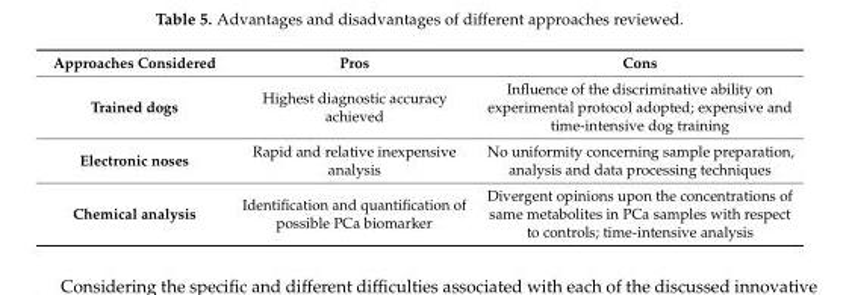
<table><thead><tr><td>Approaches Considered</td><td>Pros</td><td>Cons</td></tr></thead><tbody><tr><td>Trained dogs</td><td>Highest diagnostic accuracy achieved</td><td>Influence of the discriminative ability on experimental protocol adopted; expensive and time-intensive dog training</td></tr><tr><td>Electronic noses</td><td>Rapid and relative inexpensive analysis</td><td>No uniformity concerning sample preparation, analysis and data processing techniques</td></tr><tr><td>Chemical analysis</td><td>Identification and quantification of possible PCa biomarker</td><td>Divergent opinions upon the concentrations of same metabolites in PCa samples with respect to controls; time-intensive analysis</td></tr></tbody></table>